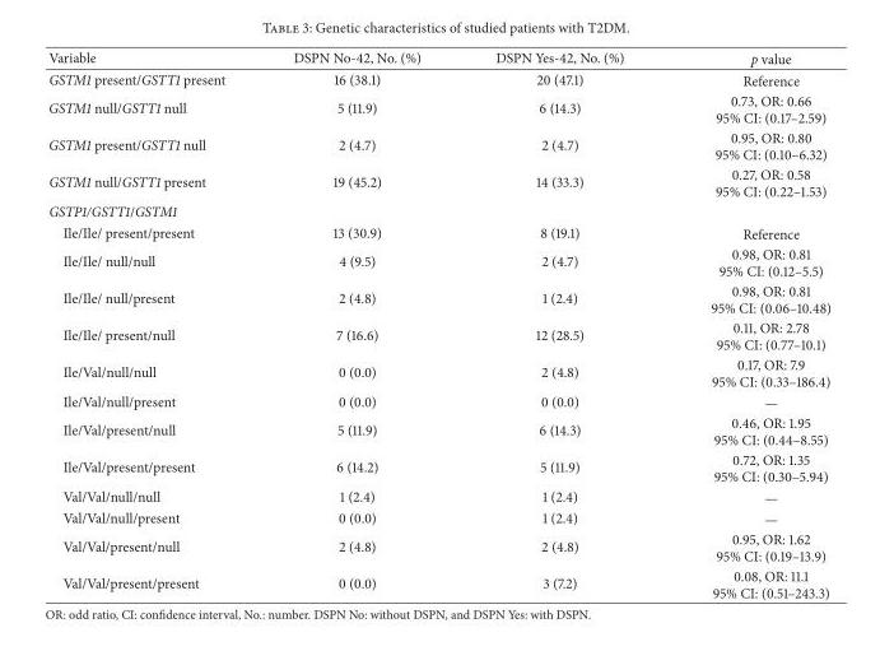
<table><thead><tr><td>Variable</td><td>DSPN No-42, No. (%)</td><td>DSPN Yes-42, No. (%)</td><td>p value</td></tr></thead><tbody><tr><td>GSTM1 present/GSTT1 present</td><td>16 (38.1)</td><td>20 (47.1)</td><td>Reference</td></tr><tr><td>GSTM1 null/GSTT1 null</td><td>5 (11.9)</td><td>6 (14.3)</td><td>0.73, OR: 0.66 95% CI: (0.17–2.59)</td></tr><tr><td>GSTM1 present/GSTT1 null</td><td>2 (4.7)</td><td>2 (4.7)</td><td>0.95, OR: 0.80 95% CI: (0.10–6.32)</td></tr><tr><td>GSTM1 null/GSTT1 present</td><td>19 (45.2)</td><td>14 (33.3)</td><td>0.27, OR: 0.58 95% CI: (0.22–1.53)</td></tr><tr><td colspan="4">GSTP1/GSTT1/GSTM1</td></tr><tr><td>Ile/Ile/ present/present</td><td>13 (30.9)</td><td>8 (19.1)</td><td>Reference</td></tr><tr><td>Ile/Ile/ null/null</td><td>4 (9.5)</td><td>2 (4.7)</td><td>0.98, OR: 0.81 95% CI: (0.12–5.5)</td></tr><tr><td>Ile/Ile/ null/present</td><td>2 (4.8)</td><td>1 (2.4)</td><td>0.98, OR: 0.81 95% CI: (0.06–10.48)</td></tr><tr><td>Ile/Ile/ present/null</td><td>7 (16.6)</td><td>12 (28.5)</td><td>0.11, OR: 2.78 95% CI: (0.77–10.1)</td></tr><tr><td>Ile/Val/null/null</td><td>0 (0.0)</td><td>2 (4.8)</td><td>0.17, OR: 7.9 95% CI: (0.33–186.4)</td></tr><tr><td>Ile/Val/null/present</td><td>0 (0.0)</td><td>0 (0.0)</td><td>—</td></tr><tr><td>Ile/Val/present/null</td><td>5 (11.9)</td><td>6 (14.3)</td><td>0.46, OR: 1.95 95% CI: (0.44–8.55)</td></tr><tr><td>Ile/Val/present/present</td><td>6 (14.2)</td><td>5 (11.9)</td><td>0.72, OR: 1.35 95% CI: (0.30–5.94)</td></tr><tr><td>Val/Val/null/null</td><td>1 (2.4)</td><td>1 (2.4)</td><td>—</td></tr><tr><td>Val/Val/null/present</td><td>0 (0.0)</td><td>1 (2.4)</td><td>—</td></tr><tr><td>Val/Val/present/null</td><td>2 (4.8)</td><td>2 (4.8)</td><td>0.95, OR: 1.62 95% CI: (0.19–13.9)</td></tr><tr><td>Val/Val/present/present</td><td>0 (0.0)</td><td>3 (7.2)</td><td>0.08, OR: 11.1 95% CI: (0.51–243.3)</td></tr></tbody></table>